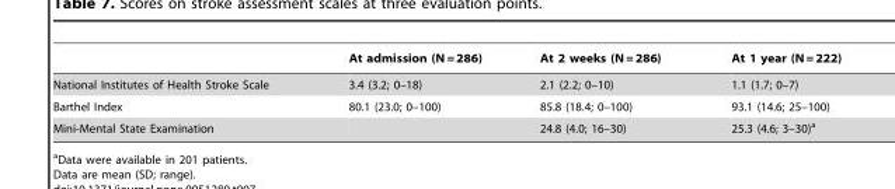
<table><thead><tr><td></td><td>At admission (N = 286)</td><td>At 2 weeks (N = 286)</td><td>At 1 year (N = 222)</td></tr></thead><tbody><tr><td>National Institutes of Health Stroke Scale</td><td>3.4 (3.2; 0–18)</td><td>2.1 (2.2; 0–10)</td><td>1.1 (1.7; 0–7)</td></tr><tr><td>Barthel Index</td><td>80.1 (23.0; 0–100)</td><td>85.8 (18.4; 0–100)</td><td>93.1 (14.6; 25–100)</td></tr><tr><td>Mini-Mental State Examination</td><td></td><td>24.8 (4.0; 16–30)</td><td>25.3 (4.6; 3–30)<sup>a</sup></td></tr></tbody></table>